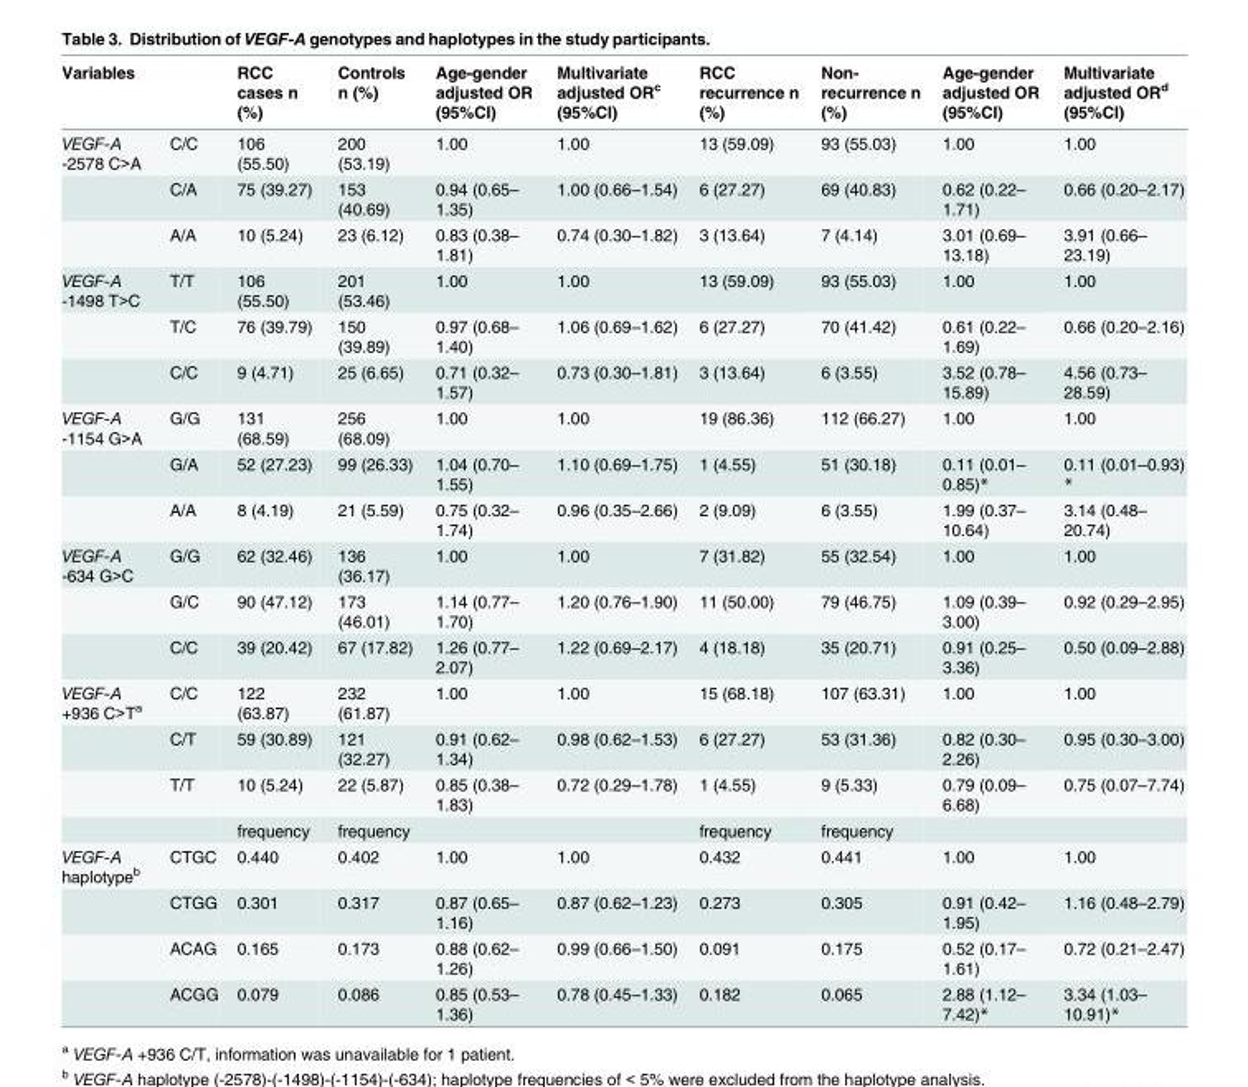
<table><thead><tr><td>Variables</td><td></td><td>RCC cases n (%)</td><td>Controls n (%)</td><td>Age-gender adjusted OR (95%CI)</td><td>Multivariate adjusted OR<sup>c</sup> (95%CI)</td><td>RCC recurrence n (%)</td><td>Non- recurrence n (%)</td><td>Age-gender adjusted OR (95%CI)</td><td>Multivariate adjusted OR<sup>d</sup> (95%CI)</td></tr></thead><tbody><tr><td rowspan="3">VEGF-A -2578 C&gt;A</td><td>C/C</td><td>106 (55.50)</td><td>200 (53.19)</td><td>1.00</td><td>1.00</td><td>13 (59.09)</td><td>93 (55.03)</td><td>1.00</td><td>1.00</td></tr><tr><td>C/A</td><td>75 (39.27)</td><td>153 (40.69)</td><td>0.94 (0.65– 1.35)</td><td>1.00 (0.66–1.54)</td><td>6 (27.27)</td><td>69 (40.83)</td><td>0.62 (0.22– 1.71)</td><td>0.66 (0.20–2.17)</td></tr><tr><td>A/A</td><td>10 (5.24)</td><td>23 (6.12)</td><td>0.83 (0.38– 1.81)</td><td>0.74 (0.30–1.82)</td><td>3 (13.64)</td><td>7 (4.14)</td><td>3.01 (0.69– 13.18)</td><td>3.91 (0.66– 23.19)</td></tr><tr><td rowspan="3">VEGF-A -1498 T&gt;C</td><td>T/T</td><td>106 (55.50)</td><td>201 (53.46)</td><td>1.00</td><td>1.00</td><td>13 (59.09)</td><td>93 (55.03)</td><td>1.00</td><td>1.00</td></tr><tr><td>T/C</td><td>76 (39.79)</td><td>150 (39.89)</td><td>0.97 (0.68– 1.40)</td><td>1.06 (0.69–1.62)</td><td>6 (27.27)</td><td>70 (41.42)</td><td>0.61 (0.22– 1.69)</td><td>0.66 (0.20–2.16)</td></tr><tr><td>C/C</td><td>9 (4.71)</td><td>25 (6.65)</td><td>0.71 (0.32– 1.57)</td><td>0.73 (0.30–1.81)</td><td>3 (13.64)</td><td>6 (3.55)</td><td>3.52 (0.78– 15.89)</td><td>4.56 (0.73– 28.59)</td></tr><tr><td rowspan="3">VEGF-A -1154 G&gt;A</td><td>G/G</td><td>131 (68.59)</td><td>256 (68.09)</td><td>1.00</td><td>1.00</td><td>19 (86.36)</td><td>112 (66.27)</td><td>1.00</td><td>1.00</td></tr><tr><td>G/A</td><td>52 (27.23)</td><td>99 (26.33)</td><td>1.04 (0.70– 1.55)</td><td>1.10 (0.69–1.75)</td><td>1 (4.55)</td><td>51 (30.18)</td><td>0.11 (0.01– 0.85)*</td><td>0.11 (0.01–0.93) *</td></tr><tr><td>A/A</td><td>8 (4.19)</td><td>21 (5.59)</td><td>0.75 (0.32– 1.74)</td><td>0.96 (0.35–2.66)</td><td>2 (9.09)</td><td>6 (3.55)</td><td>1.99 (0.37– 10.64)</td><td>3.14 (0.48– 20.74)</td></tr><tr><td rowspan="3">VEGF-A -634 G&gt;C</td><td>G/G</td><td>62 (32.46)</td><td>136 (36.17)</td><td>1.00</td><td>1.00</td><td>7 (31.82)</td><td>55 (32.54)</td><td>1.00</td><td>1.00</td></tr><tr><td>G/C</td><td>90 (47.12)</td><td>173 (46.01)</td><td>1.14 (0.77– 1.70)</td><td>1.20 (0.76–1.90)</td><td>11 (50.00)</td><td>79 (46.75)</td><td>1.09 (0.39– 3.00)</td><td>0.92 (0.29–2.95)</td></tr><tr><td>C/C</td><td>39 (20.42)</td><td>67 (17.82)</td><td>1.26 (0.77– 2.07)</td><td>1.22 (0.69–2.17)</td><td>4 (18.18)</td><td>35 (20.71)</td><td>0.91 (0.25– 3.36)</td><td>0.50 (0.09–2.88)</td></tr><tr><td rowspan="4">VEGF-A +936 C&gt;T<sup>a</sup></td><td>C/C</td><td>122 (63.87)</td><td>232 (61.87)</td><td>1.00</td><td>1.00</td><td>15 (68.18)</td><td>107 (63.31)</td><td>1.00</td><td>1.00</td></tr><tr><td>C/T</td><td>59 (30.89)</td><td>121 (32.27)</td><td>0.91 (0.62– 1.34)</td><td>0.98 (0.62–1.53)</td><td>6 (27.27)</td><td>53 (31.36)</td><td>0.82 (0.30– 2.26)</td><td>0.95 (0.30–3.00)</td></tr><tr><td>T/T</td><td>10 (5.24)</td><td>22 (5.87)</td><td>0.85 (0.38– 1.83)</td><td>0.72 (0.29–1.78)</td><td>1 (4.55)</td><td>9 (5.33)</td><td>0.79 (0.09– 6.68)</td><td>0.75 (0.07–7.74)</td></tr><tr><td></td><td>frequency</td><td>frequency</td><td></td><td></td><td>frequency</td><td>frequency</td><td></td><td></td></tr><tr><td rowspan="4">VEGF-A haplotype<sup>b</sup></td><td>CTGC</td><td>0.440</td><td>0.402</td><td>1.00</td><td>1.00</td><td>0.432</td><td>0.441</td><td>1.00</td><td>1.00</td></tr><tr><td>CTGG</td><td>0.301</td><td>0.317</td><td>0.87 (0.65– 1.16)</td><td>0.87 (0.62–1.23)</td><td>0.273</td><td>0.305</td><td>0.91 (0.42– 1.95)</td><td>1.16 (0.48–2.79)</td></tr><tr><td>ACAG</td><td>0.165</td><td>0.173</td><td>0.88 (0.62– 1.26)</td><td>0.99 (0.66–1.50)</td><td>0.091</td><td>0.175</td><td>0.52 (0.17– 1.61)</td><td>0.72 (0.21–2.47)</td></tr><tr><td>ACGG</td><td>0.079</td><td>0.086</td><td>0.85 (0.53– 1.36)</td><td>0.78 (0.45–1.33)</td><td>0.182</td><td>0.065</td><td>2.88 (1.12– 7.42)*</td><td>3.34 (1.03– 10.91)*</td></tr></tbody></table>